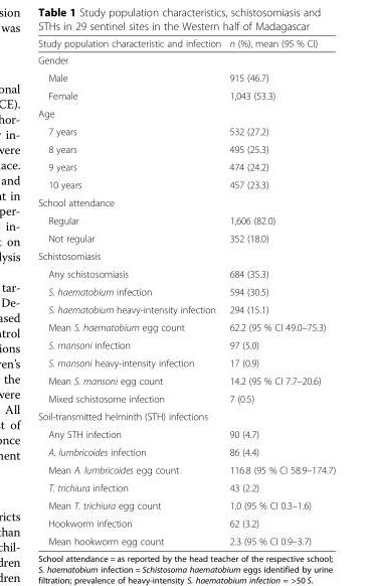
<table><thead><tr><td>Study population characteristic and infection</td><td>n (%), mean (95 % CI)</td></tr></thead><tbody><tr><td colspan="2">Gender</td></tr><tr><td>Male</td><td>915 (46.7)</td></tr><tr><td>Female</td><td>1,043 (53.3)</td></tr><tr><td colspan="2">Age</td></tr><tr><td>7 years</td><td>532 (27.2)</td></tr><tr><td>8 years</td><td>495 (25.3)</td></tr><tr><td>9 years</td><td>474 (24.2)</td></tr><tr><td>10 years</td><td>457 (23.3)</td></tr><tr><td colspan="2">School attendance</td></tr><tr><td>Regular</td><td>1,606 (82.0)</td></tr><tr><td>Not regular</td><td>352 (18.0)</td></tr><tr><td colspan="2">Schistosomiasis</td></tr><tr><td>Any schistosomiasis</td><td>684 (35.3)</td></tr><tr><td>S. haematobium infection</td><td>594 (30.5)</td></tr><tr><td>S. haematobium heavy-intensity infection</td><td>294 (15.1)</td></tr><tr><td>Mean S. haematobium egg count</td><td>62.2 (95 % CI 49.0–75.3)</td></tr><tr><td>S. mansoni infection</td><td>97 (5.0)</td></tr><tr><td>S. mansoni heavy-intensity infection</td><td>17 (0.9)</td></tr><tr><td>Mean S. mansoni egg count</td><td>14.2 (95 % CI 7.7–20.6)</td></tr><tr><td>Mixed schistosome infection</td><td>7 (0.5)</td></tr><tr><td colspan="2">Soil-transmitted helminth (STH) infections</td></tr><tr><td>Any STH infection</td><td>90 (4.7)</td></tr><tr><td>A. lumbricoides infection</td><td>86 (4.4)</td></tr><tr><td>Mean A. lumbricoides egg count</td><td>116.8 (95 % CI 58.9–174.7)</td></tr><tr><td>T. trichiura infection</td><td>43 (2.2)</td></tr><tr><td>Mean T. trichiura egg count</td><td>1.0 (95 % CI 0.3–1.6)</td></tr><tr><td>Hookworm infection</td><td>62 (3.2)</td></tr><tr><td>Mean hookworm egg count</td><td>2.3 (95 % CI 0.9–3.7)</td></tr></tbody></table>